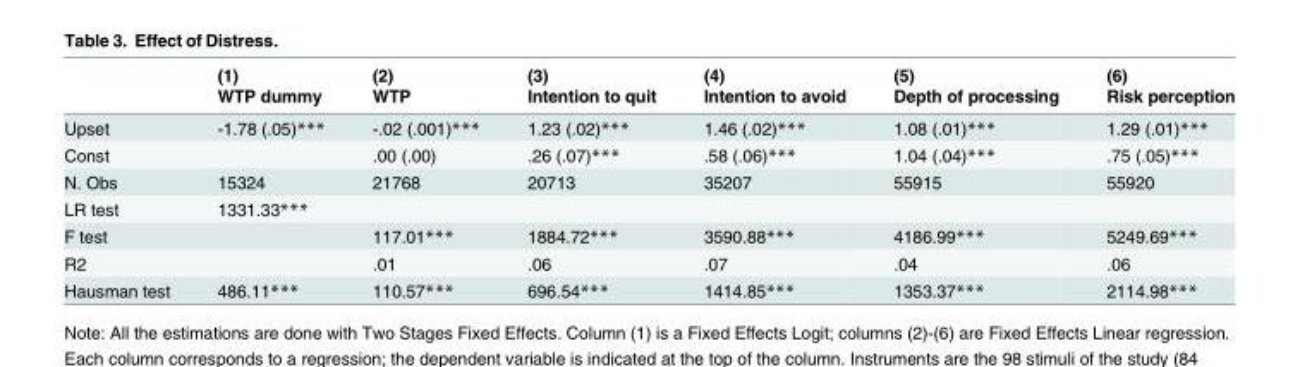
<table><thead><tr><td rowspan="2"></td><td rowspan="2">(1) WTP dummy</td><td rowspan="2">(2) WTP</td><td rowspan="2">(3) Intention to quit</td><td rowspan="2">(4) Intention to avoid</td><td rowspan="2">(5) Depth of processing</td><td rowspan="2">(6) Risk perception</td></tr><tr></tr></thead><tbody><tr><td>Upset</td><td>-1.78 (.05)***</td><td>-.02 (.001)***</td><td>1.23 (.02)***</td><td>1.46 (.02)***</td><td>1.08 (.01)***</td><td>1.29 (.01)***</td></tr><tr><td>Const</td><td></td><td>.00 (.00)</td><td>.26 (.07)***</td><td>.58 (.06)***</td><td>1.04 (.04)***</td><td>.75 (.05)***</td></tr><tr><td>N. Obs</td><td>15324</td><td>21768</td><td>20713</td><td>35207</td><td>55915</td><td>55920</td></tr><tr><td>LR test</td><td>1331.33***</td><td></td><td></td><td></td><td></td><td></td></tr><tr><td>F test</td><td></td><td>117.01***</td><td>1884.72***</td><td>3590.88***</td><td>4186.99***</td><td>5249.69***</td></tr><tr><td>R2</td><td></td><td>.01</td><td>.06</td><td>.07</td><td>.04</td><td>.06</td></tr><tr><td>Hausman test</td><td>486.11***</td><td>110.57***</td><td>696.54***</td><td>1414.85***</td><td>1353.37***</td><td>2114.98***</td></tr></tbody></table>